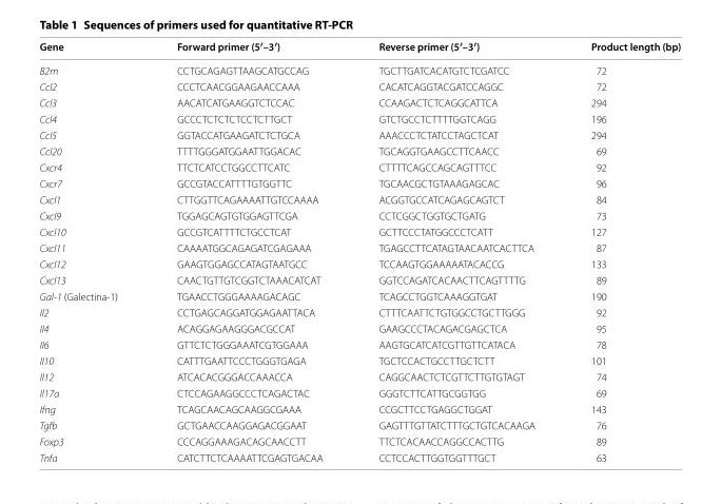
<table><thead><tr><td>Gene</td><td>Forward primer (5′–3′)</td><td>Reverse primer (5′–3′)</td><td>Product length (bp)</td></tr></thead><tbody><tr><td>B2m</td><td>CCTGCAGAGTTAAGCATGCCAG</td><td>TGCTTGATCACATGTCTCGATCC</td><td>72</td></tr><tr><td>Ccl2</td><td>CCCTCAACGGAAGAACCAAA</td><td>CACATCAGGTACGATCCAGGC</td><td>72</td></tr><tr><td>Ccl3</td><td>AACATCATGAAGGTCTCCAC</td><td>CCAAGACTCTCAGGCATTCA</td><td>294</td></tr><tr><td>Ccl4</td><td>GCCCTCTCTCTCCTCTTGCT</td><td>GTCTGCCTCTTTTGGTCAGG</td><td>196</td></tr><tr><td>Ccl5</td><td>GGTACCATGAAGATCTCTGCA</td><td>AAACCCTCTATCCTAGCTCAT</td><td>294</td></tr><tr><td>Ccl20</td><td>TTTTGGGATGGAATTGGACAC</td><td>TGCAGGTGAAGCCTTCAACC</td><td>69</td></tr><tr><td>Cxcr4</td><td>TTCTCATCCTGGCCTTCATC</td><td>CTTTTCAGCCAGCAGTTTCC</td><td>92</td></tr><tr><td>Cxcr7</td><td>GCCGTACCATTTTGTGGTTC</td><td>TGCAACGCTGTAAAGAGCAC</td><td>96</td></tr><tr><td>Cxcl1</td><td>CTTGGTTCAGAAAATTGTCCAAAA</td><td>ACGGTGCCATCAGAGCAGTCT</td><td>84</td></tr><tr><td>Cxcl9</td><td>TGGAGCAGTGTGGAGTTCGA</td><td>CCTCGGCTGGTGCTGATG</td><td>73</td></tr><tr><td>Cxcl10</td><td>GCCGTCATTTTCTGCCTCAT</td><td>GCTTCCCTATGGCCCTCATT</td><td>127</td></tr><tr><td>Cxcl11</td><td>CAAAATGGCAGAGATCGAGAAA</td><td>TGAGCCTTCATAGTAACAATCACTTCA</td><td>87</td></tr><tr><td>Cxcl12</td><td>GAAGTGGAGCCATAGTAATGCC</td><td>TCCAAGTGGAAAAATACACCG</td><td>133</td></tr><tr><td>Cxcl13</td><td>CAACTGTTGTCGGTCTAAACATCAT</td><td>GGTCCAGATCACAACTTCAGTTTTG</td><td>89</td></tr><tr><td>Gal-1 (Galectina-1)</td><td>TGAACCTGGGAAAAGACAGC</td><td>TCAGCCTGGTCAAAGGTGAT</td><td>190</td></tr><tr><td>Il2</td><td>CCTGAGCAGGATGGAGAATTACA</td><td>CTTTCAATTCTGTGGCCTGCTTGGG</td><td>92</td></tr><tr><td>Il4</td><td>ACAGGAGAAGGGACGCCAT</td><td>GAAGCCCTACAGACGAGCTCA</td><td>95</td></tr><tr><td>Il6</td><td>GTTCTCTGGGAAATCGTGGAAA</td><td>AAGTGCATCATCGTTGTTCATACA</td><td>78</td></tr><tr><td>Il10</td><td>CATTTGAATTCCCTGGGTGAGA</td><td>TGCTCCACTGCCTTGCTCTT</td><td>101</td></tr><tr><td>Il12</td><td>ATCACACGGGACCAAACCA</td><td>CAGGCAACTCTCGTTCTTGTGTAGT</td><td>74</td></tr><tr><td>Il17a</td><td>CTCCAGAAGGCCCTCAGACTAC</td><td>GGGTCTTCATTGCGGTGG</td><td>69</td></tr><tr><td>Ifng</td><td>TCAGCAACAGCAAGGCGAAA</td><td>CCGCTTCCTGAGGCTGGAT</td><td>143</td></tr><tr><td>Tgfb</td><td>GCTGAACCAAGGAGACGGAAT</td><td>GAGTTTGTTATCTTTGCTGTCACAAGA</td><td>76</td></tr><tr><td>Foxp3</td><td>CCCAGGAAAGACAGCAACCTT</td><td>TTCTCACAACCAGGCCACTTG</td><td>89</td></tr><tr><td>Tnfa</td><td>CATCTTCTCAAAATTCGAGTGACAA</td><td>CCTCCACTTGGTGGTTTGCT</td><td>63</td></tr></tbody></table>